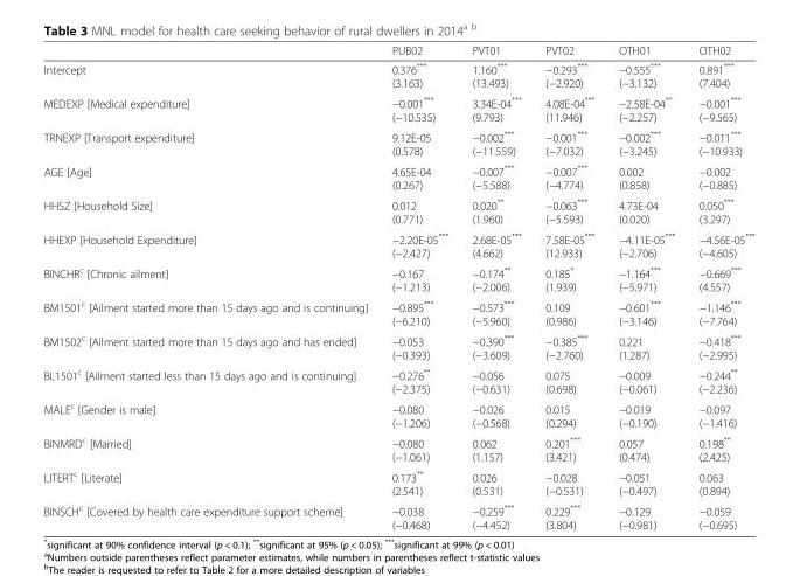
<table><thead><tr><td></td><td>PUB02</td><td>PVT01</td><td>PVT02</td><td>OTH01</td><td>OTH02</td></tr></thead><tbody><tr><td>Intercept</td><td>0.376*** (3.163)</td><td>1.160*** (13.493)</td><td>−0.293*** (−2.920)</td><td>−0.555*** (−3.132)</td><td>0.891*** (7.404)</td></tr><tr><td>MEDEXP [Medical expenditure]</td><td>−0.001*** (−10.535)</td><td>3.34E-04*** (9.793)</td><td>4.08E-04*** (11.946)</td><td>−2.58E-04** (−2.257)</td><td>−0.001*** (−9.565)</td></tr><tr><td>TRNEXP [Transport expenditure]</td><td>9.12E-05 (0.578)</td><td>−0.002*** (−11.559)</td><td>−0.001*** (−7.032)</td><td>−0.002*** (−3.245)</td><td>−0.011*** (−10.933)</td></tr><tr><td>AGE [Age]</td><td>4.65E-04 (0.267)</td><td>−0.007*** (−5.588)</td><td>−0.007*** (−4.774)</td><td>0.002 (0.858)</td><td>−0.002 (−0.885)</td></tr><tr><td>HHSZ [Household Size]</td><td>0.012 (0.771)</td><td>0.020** (1.960)</td><td>−0.063*** (−5.593)</td><td>4.73E-04 (0.020)</td><td>0.050*** (3.297)</td></tr><tr><td>HHEXP [Household Expenditure]</td><td>−2.20E-05*** (−2.427)</td><td>2.68E-05*** (4.662)</td><td>7.58E-05*** (12.933)</td><td>−4.11E-05*** (−2.706)</td><td>−4.56E-05*** (−4.605)</td></tr><tr><td>BINCHR<sup>c</sup> [Chronic ailment]</td><td>−0.167 (−1.213)</td><td>−0.174** (−2.006)</td><td>0.185* (1.939)</td><td>−1.164*** (−5.971)</td><td>−0.669*** (4.557)</td></tr><tr><td>BM1501<sup>c</sup> [Ailment started more than 15 days ago and is continuing]</td><td>−0.895*** (−6.210)</td><td>−0.573*** (−5.960)</td><td>0.109 (0.986)</td><td>−0.601*** (−3.146)</td><td>−1.146*** (−7.764)</td></tr><tr><td>BM1502<sup>c</sup> [Ailment started more than 15 days ago and has ended]</td><td>−0.053 (−0.393)</td><td>−0.390*** (−3.609)</td><td>−0.385*** (−2.760)</td><td>0.221 (1.287)</td><td>−0.418*** (−2.995)</td></tr><tr><td>BL1501<sup>c</sup> [Ailment started less than 15 days ago and is continuing]</td><td>−0.276** (−2.375)</td><td>−0.056 (−0.631)</td><td>0.075 (0.698)</td><td>−0.009 (−0.061)</td><td>−0.244** (−2.236)</td></tr><tr><td>MALE<sup>c</sup> [Gender is male]</td><td>−0.080 (−1.206)</td><td>−0.026 (−0.568)</td><td>0.015 (0.294)</td><td>−0.019 (−0.190)</td><td>−0.097 (−1.416)</td></tr><tr><td>BINMRD<sup>c</sup> [Married]</td><td>−0.080 (−1.061)</td><td>0.062 (1.157)</td><td>0.201*** (3.421)</td><td>0.057 (0.474)</td><td>0.198** (2.425)</td></tr><tr><td>LITERT<sup>c</sup> [Literate]</td><td>0.173** (2.541)</td><td>0.026 (0.531)</td><td>−0.028 (−0.531)</td><td>−0.051 (−0.497)</td><td>0.063 (0.894)</td></tr><tr><td>BINSCH<sup>c</sup> [Covered by health care expenditure support scheme]</td><td>−0.038 (−0.468)</td><td>−0.259*** (−4.452)</td><td>0.229*** (3.804)</td><td>−0.129 (−0.981)</td><td>−0.059 (−0.695)</td></tr></tbody></table>